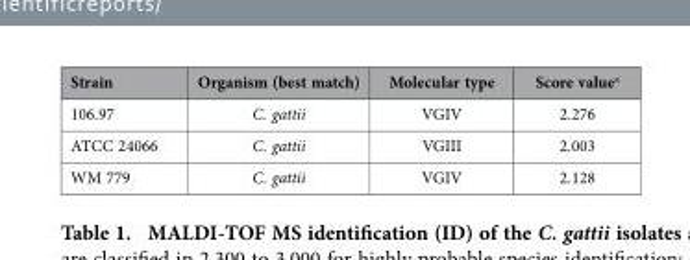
<table><thead><tr><td>Strain</td><td>Organism (best match)</td><td>Molecular type</td><td>Score value<sup>a</sup></td></tr></thead><tbody><tr><td>106.97</td><td>C. gattii</td><td>VGIV</td><td>2.276</td></tr><tr><td>ATCC 24066</td><td>C. gattii</td><td>VGIII</td><td>2.003</td></tr><tr><td>WM 779</td><td>C. gattii</td><td>VGIV</td><td>2.128</td></tr></tbody></table>